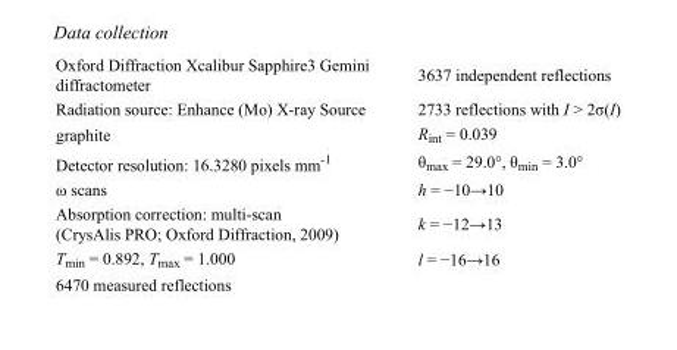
<table><tbody><tr><td>Oxford Diffraction Xcalibur Sapphire3 Gemini diffractometer</td><td>3637 independent reflections</td></tr><tr><td>Radiation source: Enhance (Mo) X-ray Source</td><td>2733 reflections with I &gt; 2σ(I)</td></tr><tr><td>graphite</td><td>R<sub>int</sub> = 0.039</td></tr><tr><td>Detector resolution: 16.3280 pixels mm<sup>-1</sup></td><td>θ<sub>max</sub> = 29.0°, θ<sub>min</sub> = 3.0°</td></tr><tr><td>ω scans</td><td>h = −10→10</td></tr><tr><td>Absorption correction: multi-scan (CrysAlis PRO; Oxford Diffraction, 2009)</td><td>k = −12→13</td></tr><tr><td>T<sub>min</sub> = 0.892, T<sub>max</sub> = 1.000</td><td>l = −16→16</td></tr><tr><td>6470 measured reflections</td><td></td></tr></tbody></table>